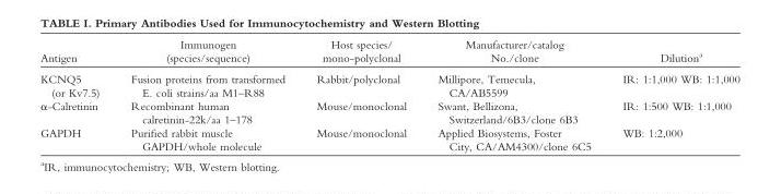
<table><thead><tr><td>Antigen</td><td>Immunogen (species/sequence)</td><td>Host species/ mono-polyclonal</td><td>Manufacturer/catalog No./clone</td><td>Dilution<sup>a</sup></td></tr></thead><tbody><tr><td>KCNQ5 (or Kv7.5)</td><td>Fusion proteins from transformed E. coli strains/aa M1–R88</td><td>Rabbit/polyclonal</td><td>Millipore, Temecula, CA/AB5599</td><td>IR: 1:1,000 WB: 1:1,000</td></tr><tr><td>α-Calretinin</td><td>Recombinant human calretinin-22k/aa 1–178</td><td>Mouse/monoclonal</td><td>Swant, Bellizona, Switzerland/6B3/clone 6B3</td><td>IR: 1:500 WB: 1:1,000</td></tr><tr><td>GAPDH</td><td>Purified rabbit muscle GAPDH/whole molecule</td><td>Mouse/monoclonal</td><td>Applied Biosystems, Foster City, CA/AM4300/clone 6C5</td><td>WB: 1:2,000</td></tr></tbody></table>